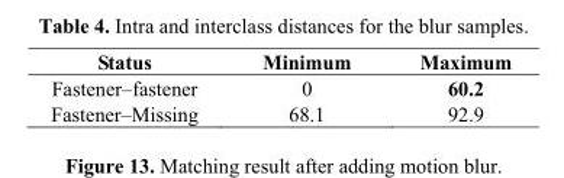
<table><thead><tr><td>Status</td><td>Minimum</td><td>Maximum</td></tr></thead><tbody><tr><td>Fastener–fastener</td><td>0</td><td>60.2</td></tr><tr><td>Fastener–Missing</td><td>68.1</td><td>92.9</td></tr></tbody></table>